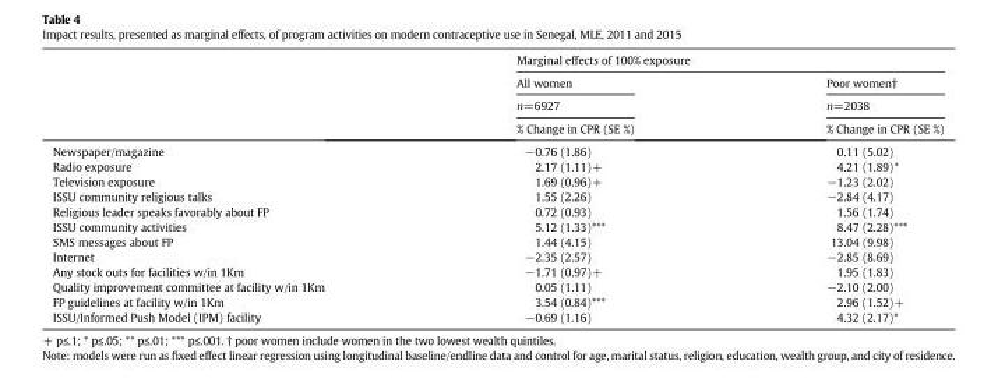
<table><thead><tr><td rowspan="4"></td><td colspan="2">Marginal effects of 100% exposure</td></tr><tr><td rowspan="3">All women n=6927 % Change in CPR (SE %)</td><td rowspan="3">Poor women† n=2038 % Change in CPR (SE %)</td></tr><tr></tr><tr></tr></thead><tbody><tr><td>Newspaper/magazine</td><td>−0.76 (1.86)</td><td>0.11 (5.02)</td></tr><tr><td>Radio exposure</td><td>2.17 (1.11)+</td><td>4.21 (1.89)*</td></tr><tr><td>Television exposure</td><td>1.69 (0.96)+</td><td>−1.23 (2.02)</td></tr><tr><td>ISSU community religious talks</td><td>1.55 (2.26)</td><td>−2.84 (4.17)</td></tr><tr><td>Religious leader speaks favorably about FP</td><td>0.72 (0.93)</td><td>1.56 (1.74)</td></tr><tr><td>ISSU community activities</td><td>5.12 (1.33)***</td><td>8.47 (2.28)***</td></tr><tr><td>SMS messages about FP</td><td>1.44 (4.15)</td><td>13.04 (9.98)</td></tr><tr><td>Internet</td><td>−2.35 (2.57)</td><td>−2.85 (8.69)</td></tr><tr><td>Any stock outs for facilities w/in 1Km</td><td>−1.71 (0.97)+</td><td>1.95 (1.83)</td></tr><tr><td>Quality improvement committee at facility w/in 1Km</td><td>0.05 (1.11)</td><td>−2.10 (2.00)</td></tr><tr><td>FP guidelines at facility w/in 1Km</td><td>3.54 (0.84)***</td><td>2.96 (1.52)+</td></tr><tr><td>ISSU/Informed Push Model (IPM) facility</td><td>−0.69 (1.16)</td><td>4.32 (2.17)*</td></tr></tbody></table>